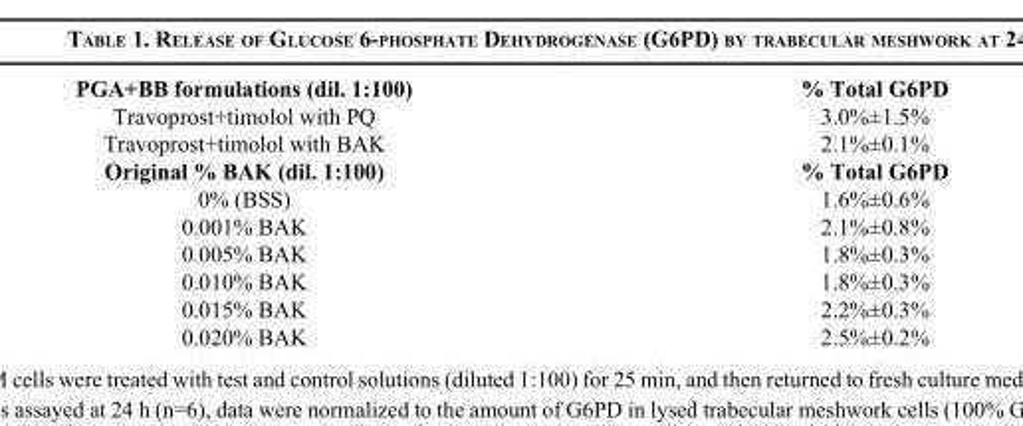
<table><thead><tr><td>PGA+BB formulations (dil. 1:100)</td><td>% Total G6PD</td></tr></thead><tbody><tr><td>Travoprost+timolol with PQ</td><td>3.0%±1.5%</td></tr><tr><td>Travoprost+timolol with BAK</td><td>2.1%±0.1%</td></tr><tr><td>Original % BAK (dil. 1:100)</td><td>% Total G6PD</td></tr><tr><td>0% (BSS)</td><td>1.6%±0.6%</td></tr><tr><td>0.001% BAK</td><td>2.1%±0.8%</td></tr><tr><td>0.005% BAK</td><td>1.8%±0.3%</td></tr><tr><td>0.010% BAK</td><td>1.8%±0.3%</td></tr><tr><td>0.015% BAK</td><td>2.2%±0.3%</td></tr><tr><td>0.020% BAK</td><td>2.5%±0.2%</td></tr></tbody></table>